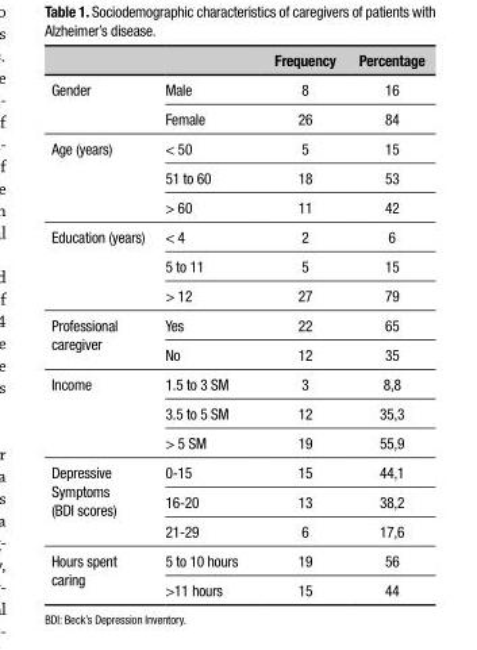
<table><thead><tr><td></td><td></td><td>Frequency</td><td>Percentage</td></tr></thead><tbody><tr><td rowspan="2">Gender</td><td>Male</td><td>8</td><td>16</td></tr><tr><td>Female</td><td>26</td><td>84</td></tr><tr><td rowspan="3">Age (years)</td><td>&lt; 50</td><td>5</td><td>15</td></tr><tr><td>51 to 60</td><td>18</td><td>53</td></tr><tr><td>&gt; 60</td><td>11</td><td>42</td></tr><tr><td rowspan="3">Education (years)</td><td>&lt; 4</td><td>2</td><td>6</td></tr><tr><td>5 to 11</td><td>5</td><td>15</td></tr><tr><td>&gt; 12</td><td>27</td><td>79</td></tr><tr><td rowspan="2">Professional caregiver</td><td>Yes</td><td>22</td><td>65</td></tr><tr><td>No</td><td>12</td><td>35</td></tr><tr><td rowspan="3">Income</td><td>1.5 to 3 SM</td><td>3</td><td>8,8</td></tr><tr><td>3.5 to 5 SM</td><td>12</td><td>35,3</td></tr><tr><td>&gt; 5 SM</td><td>19</td><td>55,9</td></tr><tr><td rowspan="3">Depressive Symptoms (BDI scores)</td><td>0-15</td><td>15</td><td>44,1</td></tr><tr><td>16-20</td><td>13</td><td>38,2</td></tr><tr><td>21-29</td><td>6</td><td>17,6</td></tr><tr><td rowspan="2">Hours spent caring</td><td>5 to 10 hours</td><td>19</td><td>56</td></tr><tr><td>&gt;11 hours</td><td>15</td><td>44</td></tr></tbody></table>